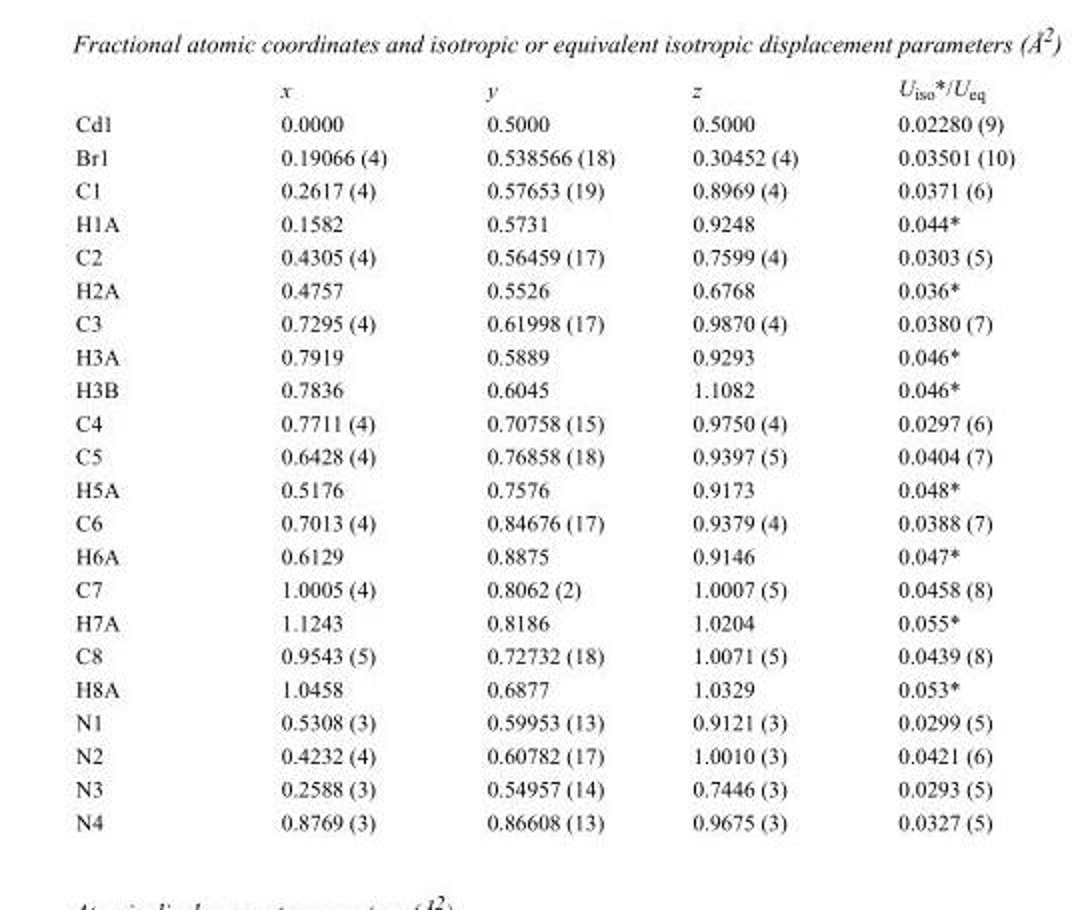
<table><thead><tr><td></td><td>x</td><td>y</td><td>z</td><td>U<sub>iso</sub>*/U<sub>eq</sub></td></tr></thead><tbody><tr><td>Cd1</td><td>0.0000</td><td>0.5000</td><td>0.5000</td><td>0.02280 (9)</td></tr><tr><td>Br1</td><td>0.19066 (4)</td><td>0.538566 (18)</td><td>0.30452 (4)</td><td>0.03501 (10)</td></tr><tr><td>C1</td><td>0.2617 (4)</td><td>0.57653 (19)</td><td>0.8969 (4)</td><td>0.0371 (6)</td></tr><tr><td>H1A</td><td>0.1582</td><td>0.5731</td><td>0.9248</td><td>0.044*</td></tr><tr><td>C2</td><td>0.4305 (4)</td><td>0.56459 (17)</td><td>0.7599 (4)</td><td>0.0303 (5)</td></tr><tr><td>H2A</td><td>0.4757</td><td>0.5526</td><td>0.6768</td><td>0.036*</td></tr><tr><td>C3</td><td>0.7295 (4)</td><td>0.61998 (17)</td><td>0.9870 (4)</td><td>0.0380 (7)</td></tr><tr><td>H3A</td><td>0.7919</td><td>0.5889</td><td>0.9293</td><td>0.046*</td></tr><tr><td>H3B</td><td>0.7836</td><td>0.6045</td><td>1.1082</td><td>0.046*</td></tr><tr><td>C4</td><td>0.7711 (4)</td><td>0.70758 (15)</td><td>0.9750 (4)</td><td>0.0297 (6)</td></tr><tr><td>C5</td><td>0.6428 (4)</td><td>0.76858 (18)</td><td>0.9397 (5)</td><td>0.0404 (7)</td></tr><tr><td>H5A</td><td>0.5176</td><td>0.7576</td><td>0.9173</td><td>0.048*</td></tr><tr><td>C6</td><td>0.7013 (4)</td><td>0.84676 (17)</td><td>0.9379 (4)</td><td>0.0388 (7)</td></tr><tr><td>H6A</td><td>0.6129</td><td>0.8875</td><td>0.9146</td><td>0.047*</td></tr><tr><td>C7</td><td>1.0005 (4)</td><td>0.8062 (2)</td><td>1.0007 (5)</td><td>0.0458 (8)</td></tr><tr><td>H7A</td><td>1.1243</td><td>0.8186</td><td>1.0204</td><td>0.055*</td></tr><tr><td>C8</td><td>0.9543 (5)</td><td>0.72732 (18)</td><td>1.0071 (5)</td><td>0.0439 (8)</td></tr><tr><td>H8A</td><td>1.0458</td><td>0.6877</td><td>1.0329</td><td>0.053*</td></tr><tr><td>N1</td><td>0.5308 (3)</td><td>0.59953 (13)</td><td>0.9121 (3)</td><td>0.0299 (5)</td></tr><tr><td>N2</td><td>0.4232 (4)</td><td>0.60782 (17)</td><td>1.0010 (3)</td><td>0.0421 (6)</td></tr><tr><td>N3</td><td>0.2588 (3)</td><td>0.54957 (14)</td><td>0.7446 (3)</td><td>0.0293 (5)</td></tr><tr><td>N4</td><td>0.8769 (3)</td><td>0.86608 (13)</td><td>0.9675 (3)</td><td>0.0327 (5)</td></tr></tbody></table>